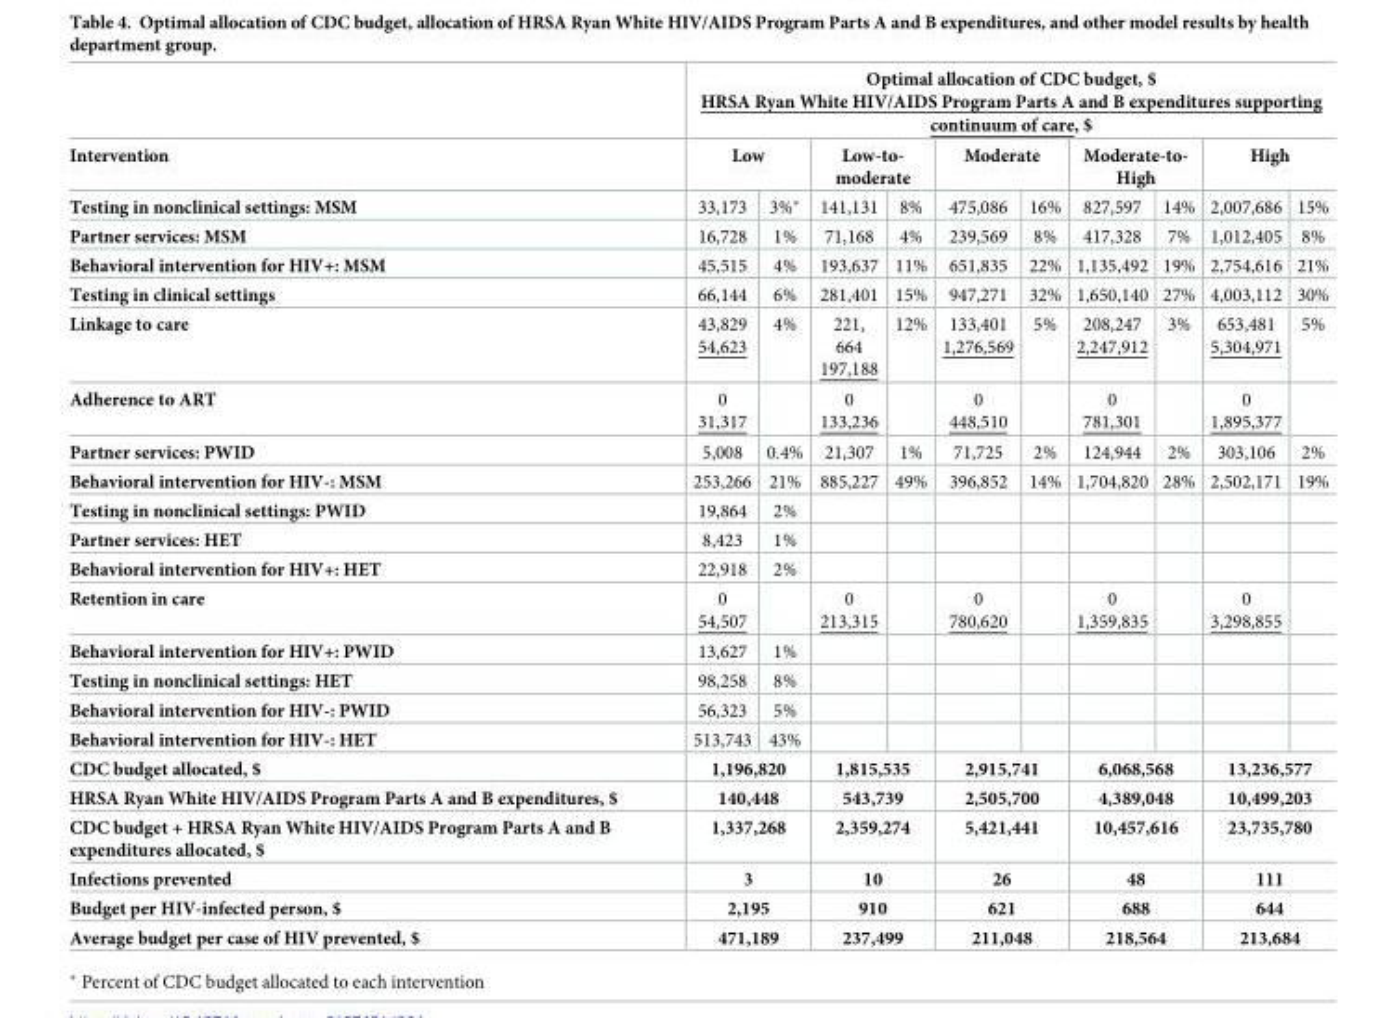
<table><thead><tr><td rowspan="3">Intervention Testing in nonclinical settings: MSM</td><td colspan="10">Optimal allocation of CDC budget, $ HRSA Ryan White HIV/AIDS Program Parts A and B expenditures supporting continuum of care, $</td></tr><tr><td colspan="2">Low</td><td colspan="2">Low-to- moderate</td><td colspan="2">Moderate</td><td colspan="2">Moderate-to- High</td><td colspan="2">High</td></tr><tr><td>33,173</td><td>3%*</td><td>141,131</td><td>8%</td><td>475,086</td><td>16%</td><td>827,597</td><td>14%</td><td>2,007,686</td><td>15%</td></tr></thead><tbody><tr><td>Partner services: MSM</td><td>16,728</td><td>1%</td><td>71,168</td><td>4%</td><td>239,569</td><td>8%</td><td>417,328</td><td>7%</td><td>1,012,405</td><td>8%</td></tr><tr><td>Behavioral intervention for HIV+: MSM</td><td>45,515</td><td>4%</td><td>193,637</td><td>11%</td><td>651,835</td><td>22%</td><td>1,135,492</td><td>19%</td><td>2,754,616</td><td>21%</td></tr><tr><td>Testing in clinical settings</td><td>66,144</td><td>6%</td><td>281,401</td><td>15%</td><td>947,271</td><td>32%</td><td>1,650,140</td><td>27%</td><td>4,003,112</td><td>30%</td></tr><tr><td>Linkage to care</td><td>43,829 54,623</td><td>4%</td><td>221, 664 197,188</td><td>12%</td><td>133,401 1,276,569</td><td>5%</td><td>208,247 2,247,912</td><td>3%</td><td>653,481 5,304,971</td><td>5%</td></tr><tr><td>Adherence to ART</td><td>0 31,317</td><td></td><td>0 133,236</td><td></td><td>0 448,510</td><td></td><td>0 781,301</td><td></td><td>0 1,895,377</td><td></td></tr><tr><td>Partner services: PWID</td><td>5,008</td><td>0.4%</td><td>21,307</td><td>1%</td><td>71,725</td><td>2%</td><td>124,944</td><td>2%</td><td>303,106</td><td>2%</td></tr><tr><td>Behavioral intervention for HIV-: MSM</td><td>253,266</td><td>21%</td><td>885,227</td><td>49%</td><td>396,852</td><td>14%</td><td>1,704,820</td><td>28%</td><td>2,502,171</td><td>19%</td></tr><tr><td>Testing in nonclinical settings: PWID</td><td>19,864</td><td>2%</td><td></td><td></td><td></td><td></td><td></td><td></td><td></td><td></td></tr><tr><td>Partner services: HET</td><td>8,423</td><td>1%</td><td></td><td></td><td></td><td></td><td></td><td></td><td></td><td></td></tr><tr><td>Behavioral intervention for HIV+: HET</td><td>22,918</td><td>2%</td><td></td><td></td><td></td><td></td><td></td><td></td><td></td><td></td></tr><tr><td>Retention in care</td><td>0 54,507</td><td></td><td>0 213,315</td><td></td><td>0 780,620</td><td></td><td>0 1,359,835</td><td></td><td>0 3,298,855</td><td></td></tr><tr><td>Behavioral intervention for HIV+: PWID</td><td>13,627</td><td>1%</td><td></td><td></td><td></td><td></td><td></td><td></td><td></td><td></td></tr><tr><td>Testing in nonclinical settings: HET</td><td>98,258</td><td>8%</td><td></td><td></td><td></td><td></td><td></td><td></td><td></td><td></td></tr><tr><td>Behavioral intervention for HIV-: PWID</td><td>56,323</td><td>5%</td><td></td><td></td><td></td><td></td><td></td><td></td><td></td><td></td></tr><tr><td>Behavioral intervention for HIV-: HET</td><td>513,743</td><td>43%</td><td></td><td></td><td></td><td></td><td></td><td></td><td></td><td></td></tr><tr><td>CDC budget allocated, $</td><td colspan="2">1,196,820</td><td colspan="2">1,815,535</td><td colspan="2">2,915,741</td><td colspan="2">6,068,568</td><td colspan="2">13,236,577</td></tr><tr><td>HRSA Ryan White HIV/AIDS Program Parts A and B expenditures, $</td><td colspan="2">140,448</td><td colspan="2">543,739</td><td colspan="2">2,505,700</td><td colspan="2">4,389,048</td><td colspan="2">10,499,203</td></tr><tr><td>CDC budget + HRSA Ryan White HIV/AIDS Program Parts A and B expenditures allocated, $</td><td colspan="2">1,337,268</td><td colspan="2">2,359,274</td><td colspan="2">5,421,441</td><td colspan="2">10,457,616</td><td colspan="2">23,735,780</td></tr><tr><td>Infections prevented</td><td colspan="2">3</td><td colspan="2">10</td><td colspan="2">26</td><td colspan="2">48</td><td colspan="2">111</td></tr><tr><td>Budget per HIV-infected person, $</td><td colspan="2">2,195</td><td colspan="2">910</td><td colspan="2">621</td><td colspan="2">688</td><td colspan="2">644</td></tr><tr><td>Average budget per case of HIV prevented, $</td><td colspan="2">471,189</td><td colspan="2">237,499</td><td colspan="2">211,048</td><td colspan="2">218,564</td><td colspan="2">213,684</td></tr></tbody></table>